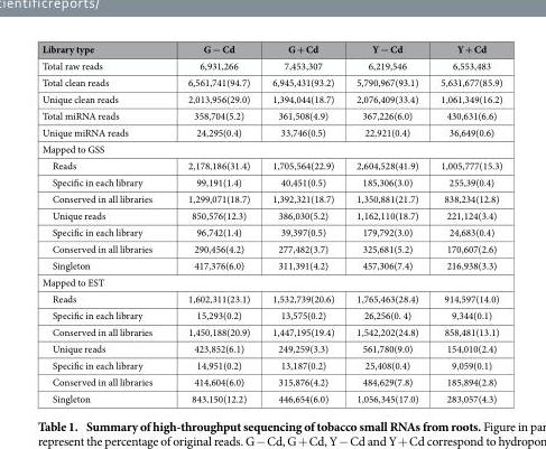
<table><thead><tr><td>Library type</td><td>G − Cd</td><td>G + Cd</td><td>Y − Cd</td><td>Y + Cd</td></tr></thead><tbody><tr><td>Total raw reads</td><td>6,931,266</td><td>7,453,307</td><td>6,219,546</td><td>6,553,483</td></tr><tr><td>Total clean reads</td><td>6,561,741(94.7)</td><td>6,945,431(93.2)</td><td>5,790,967(93.1)</td><td>5,631,677(85.9)</td></tr><tr><td>Unique clean reads</td><td>2,013,956(29.0)</td><td>1,394,044(18.7)</td><td>2,076,409(33.4)</td><td>1,061,349(16.2)</td></tr><tr><td>Total miRNA reads</td><td>358,704(5.2)</td><td>361,508(4.9)</td><td>367,226(6.0)</td><td>430,631(6.6)</td></tr><tr><td>Unique miRNA reads</td><td>24,295(0.4)</td><td>33,746(0.5)</td><td>22,921(0.4)</td><td>36,649(0.6)</td></tr><tr><td colspan="5">Mapped to GSS</td></tr><tr><td>Reads</td><td>2,178,186(31.4)</td><td>1,705,564(22.9)</td><td>2,604,528(41.9)</td><td>1,005,777(15.3)</td></tr><tr><td>Specific in each library</td><td>99,191(1.4)</td><td>40,451(0.5)</td><td>185,306(3.0)</td><td>255,39(0.4)</td></tr><tr><td>Conserved in all libraries</td><td>1,299,071(18.7)</td><td>1,392,321(18.7)</td><td>1,350,881(21.7)</td><td>838,234(12.8)</td></tr><tr><td>Unique reads</td><td>850,576(12.3)</td><td>386,030(5.2)</td><td>1,162,110(18.7)</td><td>221,124(3.4)</td></tr><tr><td>Specific in each library</td><td>96,742(1.4)</td><td>39,397(0.5)</td><td>179,792(3.0)</td><td>24,683(0.4)</td></tr><tr><td>Conserved in all libraries</td><td>290,456(4.2)</td><td>277,482(3.7)</td><td>325,681(5.2)</td><td>170,607(2.6)</td></tr><tr><td>Singleton</td><td>417,376(6.0)</td><td>311,391(4.2)</td><td>457,306(7.4)</td><td>216,938(3.3)</td></tr><tr><td colspan="5">Mapped to EST</td></tr><tr><td>Reads</td><td>1,602,311(23.1)</td><td>1,532,739(20.6)</td><td>1,765,463(28.4)</td><td>914,597(14.0)</td></tr><tr><td>Specific in each library</td><td>15,293(0.2)</td><td>13,575(0.2)</td><td>26,256(0. 4)</td><td>9,344(0.1)</td></tr><tr><td>Conserved in all libraries</td><td>1,450,188(20.9)</td><td>1,447,195(19.4)</td><td>1,542,202(24.8)</td><td>858,481(13.1)</td></tr><tr><td>Unique reads</td><td>423,852(6.1)</td><td>249,259(3.3)</td><td>561,780(9.0)</td><td>154,010(2.4)</td></tr><tr><td>Specific in each library</td><td>14,951(0.2)</td><td>13,187(0.2)</td><td>25,408(0.4)</td><td>9,059(0.1)</td></tr><tr><td>Conserved in all libraries</td><td>414,604(6.0)</td><td>315,876(4.2)</td><td>484,629(7.8)</td><td>185,894(2.8)</td></tr><tr><td>Singleton</td><td>843,150(12.2)</td><td>446,654(6.0)</td><td>1,056,345(17.0)</td><td>283,057(4.3)</td></tr></tbody></table>